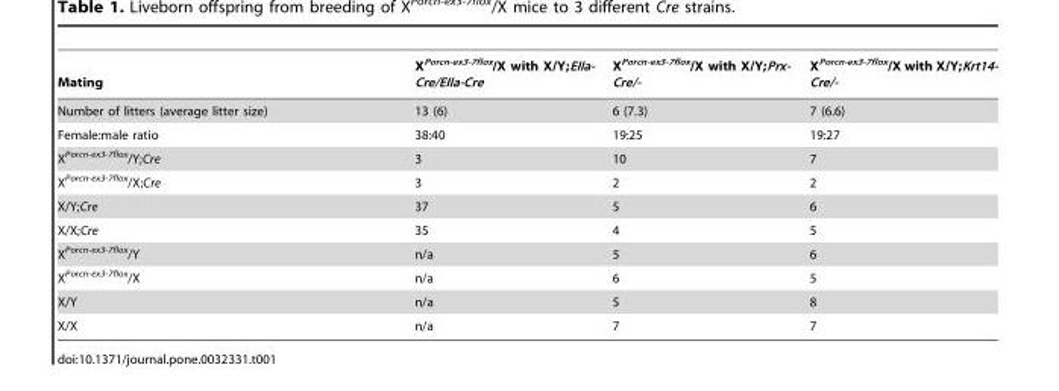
<table><thead><tr><td>Mating</td><td>X<sup>Porcn-ex3-7flox</sup>/X with X/Y;EIIa- Cre/EIIa-Cre</td><td>X<sup>Porcn-ex3-7flox</sup>/X with X/Y;Prx- Cre/-</td><td>X<sup>Porcn-ex3-7flox</sup>/X with X/Y;Krt14- Cre/-</td></tr></thead><tbody><tr><td>Number of litters (average litter size)</td><td>13 (6)</td><td>6 (7.3)</td><td>7 (6.6)</td></tr><tr><td>Female:male ratio</td><td>38:40</td><td>19:25</td><td>19:27</td></tr><tr><td>X<sup>Porcn-ex3-7flox</sup>/Y;Cre</td><td>3</td><td>10</td><td>7</td></tr><tr><td>X<sup>Porcn-ex3-7flox</sup>/X;Cre</td><td>3</td><td>2</td><td>2</td></tr><tr><td>X/Y;Cre</td><td>37</td><td>5</td><td>6</td></tr><tr><td>X/X;Cre</td><td>35</td><td>4</td><td>5</td></tr><tr><td>X<sup>Porcn-ex3-7flox</sup>/Y</td><td>n/a</td><td>5</td><td>6</td></tr><tr><td>X<sup>Porcn-ex3-7flox</sup>/X</td><td>n/a</td><td>6</td><td>5</td></tr><tr><td>X/Y</td><td>n/a</td><td>5</td><td>8</td></tr><tr><td>X/X</td><td>n/a</td><td>7</td><td>7</td></tr></tbody></table>